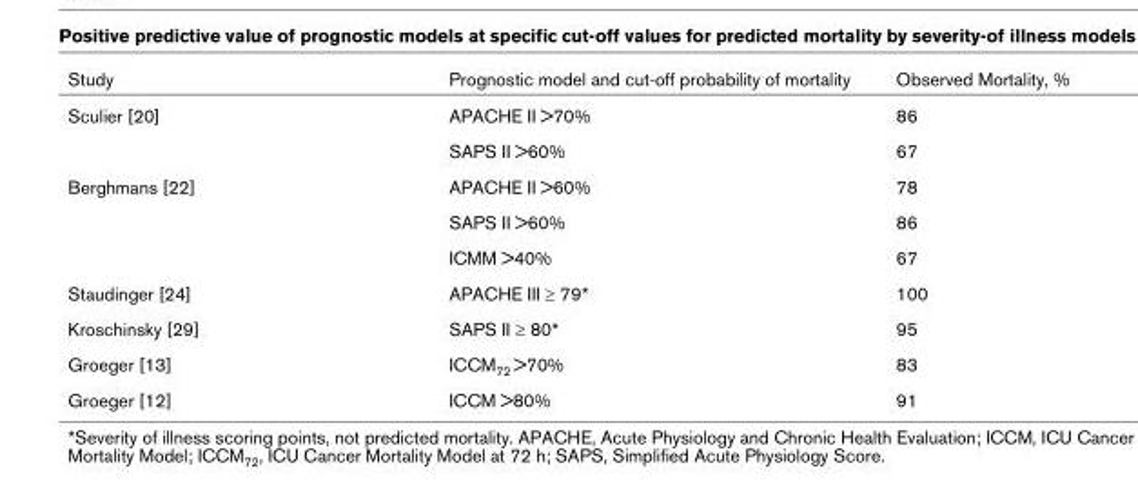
<table><thead><tr><td>Study</td><td>Prognostic model and cut-off probability of mortality</td><td>Observed Mortality, %</td></tr></thead><tbody><tr><td rowspan="2">Sculier [20]</td><td>APACHE II &gt;70%</td><td>86</td></tr><tr><td>SAPS II &gt;60%</td><td>67</td></tr><tr><td rowspan="3">Berghmans [22]</td><td>APACHE II &gt;60%</td><td>78</td></tr><tr><td>SAPS II &gt;60%</td><td>86</td></tr><tr><td>ICMM &gt;40%</td><td>67</td></tr><tr><td>Staudinger [24]</td><td>APACHE III ≥ 79*</td><td>100</td></tr><tr><td>Kroschinsky [29]</td><td>SAPS II ≥ 80*</td><td>95</td></tr><tr><td>Groeger [13]</td><td>ICCM72 &gt;70%</td><td>83</td></tr><tr><td>Groeger [12]</td><td>ICCM &gt;80%</td><td>91</td></tr></tbody></table>